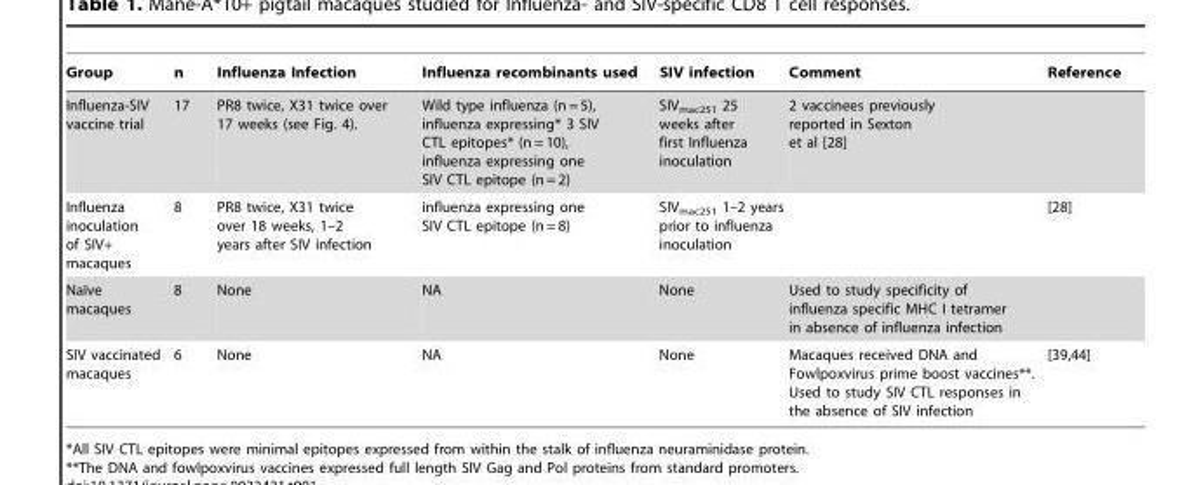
<table><thead><tr><td>Group</td><td>n</td><td>Influenza Infection</td><td>Influenza recombinants used</td><td>SIV infection</td><td>Comment</td><td>Reference</td></tr></thead><tbody><tr><td>Influenza-SIV vaccine trial</td><td>17</td><td>PR8 twice, X31 twice over 17 weeks (see Fig. 4).</td><td>Wild type influenza (n = 5), influenza expressing* 3 SIV CTL epitopes* (n = 10), influenza expressing one SIV CTL epitope (n = 2)</td><td>SIV<sub>mac251</sub> 25 weeks after first Influenza inoculation</td><td>2 vaccinees previously reported in Sexton et al [28]</td><td></td></tr><tr><td>Influenza inoculation of SIV+ macaques</td><td>8</td><td>PR8 twice, X31 twice over 18 weeks, 1–2 years after SIV infection</td><td>influenza expressing one SIV CTL epitope (n = 8)</td><td>SIV<sub>mac251</sub> 1–2 years prior to influenza inoculation</td><td></td><td>[28]</td></tr><tr><td>Naı¨ve macaques</td><td>8</td><td>None</td><td>NA</td><td>None</td><td>Used to study specificity of influenza specific MHC I tetramer in absence of influenza infection</td><td></td></tr><tr><td>SIV vaccinated macaques</td><td>6</td><td>None</td><td>NA</td><td>None</td><td>Macaques received DNA and Fowlpoxvirus prime boost vaccines**. Used to study SIV CTL responses in the absence of SIV infection</td><td>[39,44]</td></tr></tbody></table>